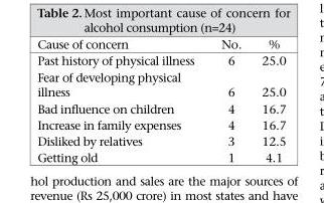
<table><thead><tr><td>Cause of concern</td><td>No.</td><td>%</td></tr></thead><tbody><tr><td>Past history of physical illness</td><td>6</td><td>25.0</td></tr><tr><td>Fear of developing physical illness</td><td>6</td><td>25.0</td></tr><tr><td>Bad influence on children</td><td>4</td><td>16.7</td></tr><tr><td>Increase in family expenses</td><td>4</td><td>16.7</td></tr><tr><td>Disliked by relatives</td><td>3</td><td>12.5</td></tr><tr><td>Getting old</td><td>1</td><td>4.1</td></tr></tbody></table>